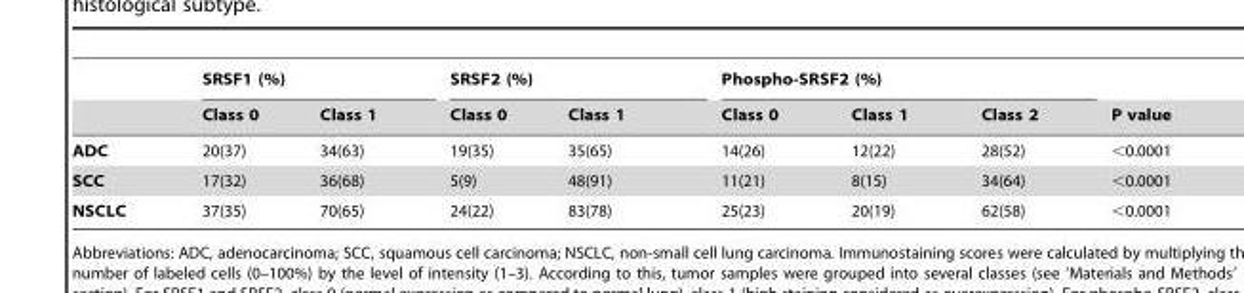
<table><thead><tr><td rowspan="2"></td><td colspan="2">SRSF1 (%)</td><td colspan="2">SRSF2 (%)</td><td colspan="3">Phospho-SRSF2 (%)</td><td rowspan="2">P value</td></tr><tr><td>Class 0</td><td>Class 1</td><td>Class 0</td><td>Class 1</td><td>Class 0</td><td>Class 1</td><td>Class 2</td></tr></thead><tbody><tr><td>ADC</td><td>20(37)</td><td>34(63)</td><td>19(35)</td><td>35(65)</td><td>14(26)</td><td>12(22)</td><td>28(52)</td><td>&lt;0.0001</td></tr><tr><td>SCC</td><td>17(32)</td><td>36(68)</td><td>5(9)</td><td>48(91)</td><td>11(21)</td><td>8(15)</td><td>34(64)</td><td>&lt;0.0001</td></tr><tr><td>NSCLC</td><td>37(35)</td><td>70(65)</td><td>24(22)</td><td>83(78)</td><td>25(23)</td><td>20(19)</td><td>62(58)</td><td>&lt;0.0001</td></tr></tbody></table>